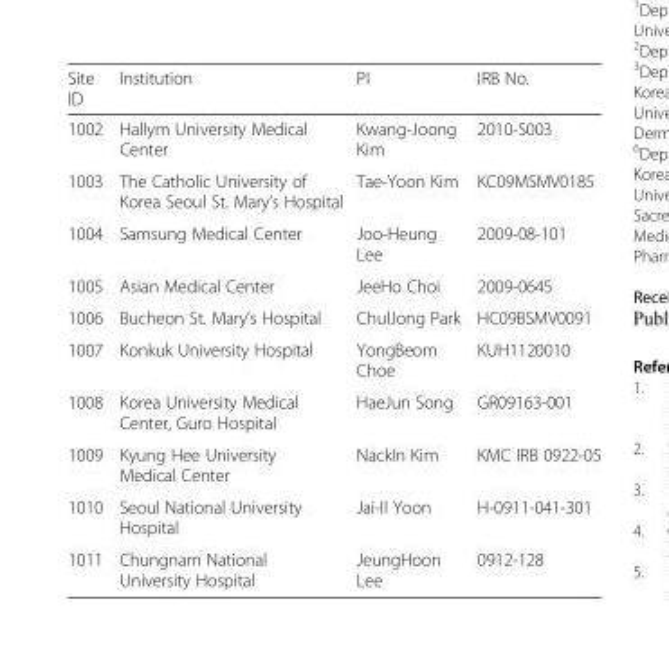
<table><tbody><tr><td>Site ID</td><td>Institution</td><td>PI</td><td>IRB No.</td></tr><tr><td>1002</td><td>Hallym University Medical Center</td><td>Kwang-Joong Kim</td><td>2010-S003</td></tr><tr><td>1003</td><td>The Catholic University of Korea Seoul St. Mary’s Hospital</td><td>Tae-Yoon Kim</td><td>KC09MSMV0185</td></tr><tr><td>1004</td><td>Samsung Medical Center</td><td>Joo-Heung Lee</td><td>2009-08-101</td></tr><tr><td>1005</td><td>Asian Medical Center</td><td>JeeHo Choi</td><td>2009-0645</td></tr><tr><td>1006</td><td>Bucheon St. Mary’s Hospital</td><td>ChulJong Park</td><td>HC09BSMV0091</td></tr><tr><td>1007</td><td>Konkuk University Hospital</td><td>YongBeom Choe</td><td>KUH1120010</td></tr><tr><td>1008</td><td>Korea University Medical Center, Guro Hospital</td><td>HaeJun Song</td><td>GR09163-001</td></tr><tr><td>1009</td><td>Kyung Hee University Medical Center</td><td>NackIn Kim</td><td>KMC IRB 0922-05</td></tr><tr><td>1010</td><td>Seoul National University Hospital</td><td>Jai-Il Yoon</td><td>H-0911-041-301</td></tr><tr><td>1011</td><td>Chungnam National University Hospital</td><td>JeungHoon Lee</td><td>0912-128</td></tr></tbody></table>